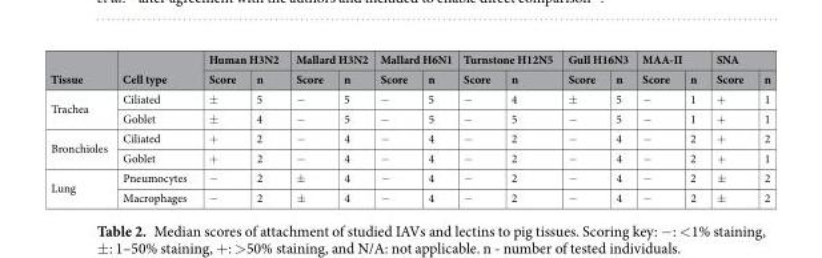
<table><thead><tr><td rowspan="2">Tissue</td><td rowspan="2">Cell type</td><td colspan="2">Human H3N2</td><td colspan="2">Mallard H3N2</td><td colspan="2">Mallard H6N1</td><td colspan="2">Turnstone H12N5</td><td colspan="2">Gull H16N3</td><td colspan="2">MAA-II</td><td colspan="2">SNA</td></tr><tr><td>Score</td><td>n</td><td>Score</td><td>n</td><td>Score</td><td>n</td><td>Score</td><td>n</td><td>Score</td><td>n</td><td>Score</td><td>n</td><td>Score</td><td>n</td></tr></thead><tbody><tr><td rowspan="2">Trachea</td><td>Ciliated</td><td>±</td><td>5</td><td>−</td><td>5</td><td>−</td><td>5</td><td>−</td><td>4</td><td>±</td><td>5</td><td>−</td><td>1</td><td>+</td><td>1</td></tr><tr><td>Goblet</td><td>±</td><td>4</td><td>−</td><td>5</td><td>−</td><td>5</td><td>−</td><td>5</td><td>−</td><td>5</td><td>−</td><td>1</td><td>+</td><td>1</td></tr><tr><td rowspan="2">Bronchioles</td><td>Ciliated</td><td>+</td><td>2</td><td>−</td><td>4</td><td>−</td><td>4</td><td>−</td><td>2</td><td>−</td><td>4</td><td>−</td><td>2</td><td>+</td><td>2</td></tr><tr><td>Goblet</td><td>+</td><td>2</td><td>−</td><td>4</td><td>−</td><td>4</td><td>−</td><td>2</td><td>−</td><td>4</td><td>−</td><td>2</td><td>+</td><td>1</td></tr><tr><td rowspan="2">Lung</td><td>Pneumocytes</td><td>−</td><td>2</td><td>±</td><td>4</td><td>−</td><td>4</td><td>−</td><td>2</td><td>−</td><td>4</td><td>−</td><td>2</td><td>±</td><td>2</td></tr><tr><td>Macrophages</td><td>−</td><td>2</td><td>±</td><td>4</td><td>−</td><td>4</td><td>−</td><td>2</td><td>−</td><td>4</td><td>−</td><td>2</td><td>±</td><td>2</td></tr></tbody></table>